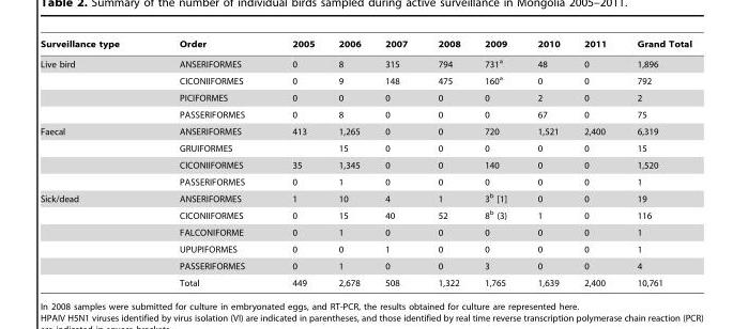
<table><thead><tr><td>Surveillance type</td><td>Order</td><td>2005</td><td>2006</td><td>2007</td><td>2008</td><td>2009</td><td>2010</td><td>2011</td><td>Grand Total</td></tr></thead><tbody><tr><td rowspan="4">Live bird</td><td>ANSERIFORMES</td><td>0</td><td>8</td><td>315</td><td>794</td><td>731<sup>a</sup></td><td>48</td><td>0</td><td>1,896</td></tr><tr><td>CICONIIFORMES</td><td>0</td><td>9</td><td>148</td><td>475</td><td>160<sup>a</sup></td><td>0</td><td>0</td><td>792</td></tr><tr><td>PICIFORMES</td><td>0</td><td>0</td><td>0</td><td>0</td><td>0</td><td>2</td><td>0</td><td>2</td></tr><tr><td>PASSERIFORMES</td><td>0</td><td>8</td><td>0</td><td>0</td><td>0</td><td>67</td><td>0</td><td>75</td></tr><tr><td rowspan="4">Faecal</td><td>ANSERIFORMES</td><td>413</td><td>1,265</td><td>0</td><td>0</td><td>720</td><td>1,521</td><td>2,400</td><td>6,319</td></tr><tr><td>GRUIFORMES</td><td></td><td>15</td><td>0</td><td>0</td><td>0</td><td>0</td><td>0</td><td>15</td></tr><tr><td>CICONIIFORMES</td><td>35</td><td>1,345</td><td>0</td><td>0</td><td>140</td><td>0</td><td>0</td><td>1,520</td></tr><tr><td>PASSERIFORMES</td><td>0</td><td>1</td><td>0</td><td>0</td><td>0</td><td>0</td><td>0</td><td>1</td></tr><tr><td rowspan="6">Sick/dead</td><td>ANSERIFORMES</td><td>1</td><td>10</td><td>4</td><td>1</td><td>3<sup>b</sup> [1]</td><td>0</td><td>0</td><td>19</td></tr><tr><td>CICONIIFORMES</td><td>0</td><td>15</td><td>40</td><td>52</td><td>8<sup>b</sup> (3)</td><td>1</td><td>0</td><td>116</td></tr><tr><td>FALCONIFORME</td><td>0</td><td>1</td><td>0</td><td>0</td><td>0</td><td>0</td><td>0</td><td>1</td></tr><tr><td>UPUPIFORMES</td><td>0</td><td>0</td><td>1</td><td>0</td><td>0</td><td>0</td><td>0</td><td>1</td></tr><tr><td>PASSERIFORMES</td><td>0</td><td>1</td><td>0</td><td>0</td><td>3</td><td>0</td><td>0</td><td>4</td></tr><tr><td>Total</td><td>449</td><td>2,678</td><td>508</td><td>1,322</td><td>1,765</td><td>1,639</td><td>2,400</td><td>10,761</td></tr></tbody></table>